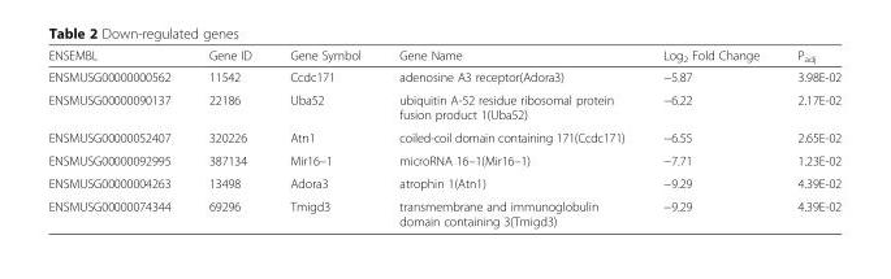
<table><thead><tr><td>ENSEMBL</td><td>Gene ID</td><td>Gene Symbol</td><td>Gene Name</td><td>Log<sub>2</sub> Fold Change</td><td>P<sub>adj</sub></td></tr></thead><tbody><tr><td>ENSMUSG00000000562</td><td>11542</td><td>Ccdc171</td><td>adenosine A3 receptor(Adora3)</td><td>−5.87</td><td>3.98E-02</td></tr><tr><td>ENSMUSG00000090137</td><td>22186</td><td>Uba52</td><td>ubiquitin A-52 residue ribosomal protein fusion product 1(Uba52)</td><td>−6.22</td><td>2.17E-02</td></tr><tr><td>ENSMUSG00000052407</td><td>320226</td><td>Atn1</td><td>coiled-coil domain containing 171(Ccdc171)</td><td>−6.55</td><td>2.65E-02</td></tr><tr><td>ENSMUSG00000092995</td><td>387134</td><td>Mir16–1</td><td>microRNA 16–1(Mir16–1)</td><td>−7.71</td><td>1.23E-02</td></tr><tr><td>ENSMUSG00000004263</td><td>13498</td><td>Adora3</td><td>atrophin 1(Atn1)</td><td>−9.29</td><td>4.39E-02</td></tr><tr><td>ENSMUSG00000074344</td><td>69296</td><td>Tmigd3</td><td>transmembrane and immunoglobulin domain containing 3(Tmigd3)</td><td>−9.29</td><td>4.39E-02</td></tr></tbody></table>